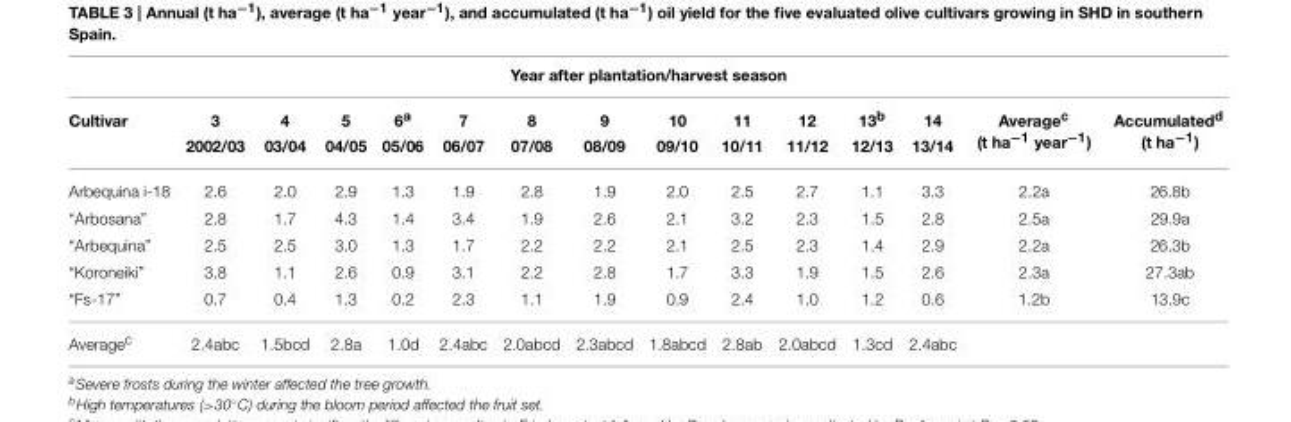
<table><thead><tr><td colspan="15">Year after plantation/harvest season</td></tr><tr><td rowspan="2">Cultivar</td><td rowspan="2">3 2002/03</td><td rowspan="2">4 03/04</td><td rowspan="2">5 04/05</td><td rowspan="2">6<sup>a</sup> 05/06</td><td rowspan="2">7 06/07</td><td rowspan="2">8 07/08</td><td rowspan="2">9 08/09</td><td rowspan="2">10 09/10</td><td rowspan="2">11 10/11</td><td rowspan="2">12 11/12</td><td rowspan="2">13<sup>b</sup> 12/13</td><td rowspan="2">14 13/14</td><td rowspan="2">Average<sup>c</sup> (t ha<sup>−1</sup> year<sup>−1</sup>)</td><td rowspan="2">Accumulated<sup>d</sup> (t ha<sup>−1</sup>)</td></tr><tr></tr></thead><tbody><tr><td>Arbequina i-18</td><td>2.6</td><td>2.0</td><td>2.9</td><td>1.3</td><td>1.9</td><td>2.8</td><td>1.9</td><td>2.0</td><td>2.5</td><td>2.7</td><td>1.1</td><td>3.3</td><td>2.2a</td><td>26.8b</td></tr><tr><td>“Arbosana”</td><td>2.8</td><td>1.7</td><td>4.3</td><td>1.4</td><td>3.4</td><td>1.9</td><td>2.6</td><td>2.1</td><td>3.2</td><td>2.3</td><td>1.5</td><td>2.8</td><td>2.5a</td><td>29.9a</td></tr><tr><td>“Arbequina”</td><td>2.5</td><td>2.5</td><td>3.0</td><td>1.3</td><td>1.7</td><td>2.2</td><td>2.2</td><td>2.1</td><td>2.5</td><td>2.3</td><td>1.4</td><td>2.9</td><td>2.2a</td><td>26.3b</td></tr><tr><td>“Koroneiki”</td><td>3.8</td><td>1.1</td><td>2.6</td><td>0.9</td><td>3.1</td><td>2.2</td><td>2.8</td><td>1.7</td><td>3.3</td><td>1.9</td><td>1.5</td><td>2.6</td><td>2.3a</td><td>27.3ab</td></tr><tr><td>“Fs-17”</td><td>0.7</td><td>0.4</td><td>1.3</td><td>0.2</td><td>2.3</td><td>1.1</td><td>1.9</td><td>0.9</td><td>2.4</td><td>1.0</td><td>1.2</td><td>0.6</td><td>1.2b</td><td>13.9c</td></tr><tr><td>Average<sup>c</sup></td><td>2.4abc</td><td>1.5bcd</td><td>2.8a</td><td>1.0d</td><td>2.4abc</td><td>2.0abcd</td><td>2.3abcd</td><td>1.8abcd</td><td>2.8ab</td><td>2.0abcd</td><td>1.3cd</td><td>2.4abc</td><td></td><td></td></tr></tbody></table>